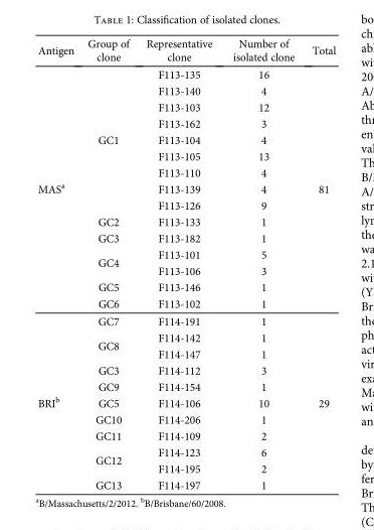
<table><thead><tr><td>Antigen</td><td>Group of clone</td><td>Representative clone</td><td>Number of isolated clone</td><td>Total</td></tr></thead><tbody><tr><td rowspan="15">MAS<sup>a</sup></td><td rowspan="9">GC1</td><td>F113-135</td><td>16</td><td rowspan="15">81</td></tr><tr><td>F113-140</td><td>4</td></tr><tr><td>F113-103</td><td>12</td></tr><tr><td>F113-162</td><td>3</td></tr><tr><td>F113-104</td><td>4</td></tr><tr><td>F113-105</td><td>13</td></tr><tr><td>F113-110</td><td>4</td></tr><tr><td>F113-139</td><td>4</td></tr><tr><td>F113-126</td><td>9</td></tr><tr><td>GC2</td><td>F113-133</td><td>1</td></tr><tr><td>GC3</td><td>F113-182</td><td>1</td></tr><tr><td rowspan="2">GC4</td><td>F113-101</td><td>5</td></tr><tr><td>F113-106</td><td>3</td></tr><tr><td>GC5</td><td>F113-146</td><td>1</td></tr><tr><td>GC6</td><td>F113-102</td><td>1</td></tr><tr><td rowspan="11">BRI<sup>b</sup></td><td>GC7</td><td>F114-191</td><td>1</td><td rowspan="11">29</td></tr><tr><td rowspan="2">GC8</td><td>F114-142</td><td>1</td></tr><tr><td>F114-147</td><td>1</td></tr><tr><td>GC3</td><td>F114-112</td><td>3</td></tr><tr><td>GC9</td><td>F114-154</td><td>1</td></tr><tr><td>GC5</td><td>F114-106</td><td>10</td></tr><tr><td>GC10</td><td>F114-206</td><td>1</td></tr><tr><td>GC11</td><td>F114-109</td><td>2</td></tr><tr><td rowspan="2">GC12</td><td>F114-123</td><td>6</td></tr><tr><td>F114-195</td><td>2</td></tr><tr><td>GC13</td><td>F114-197</td><td>1</td></tr></tbody></table>